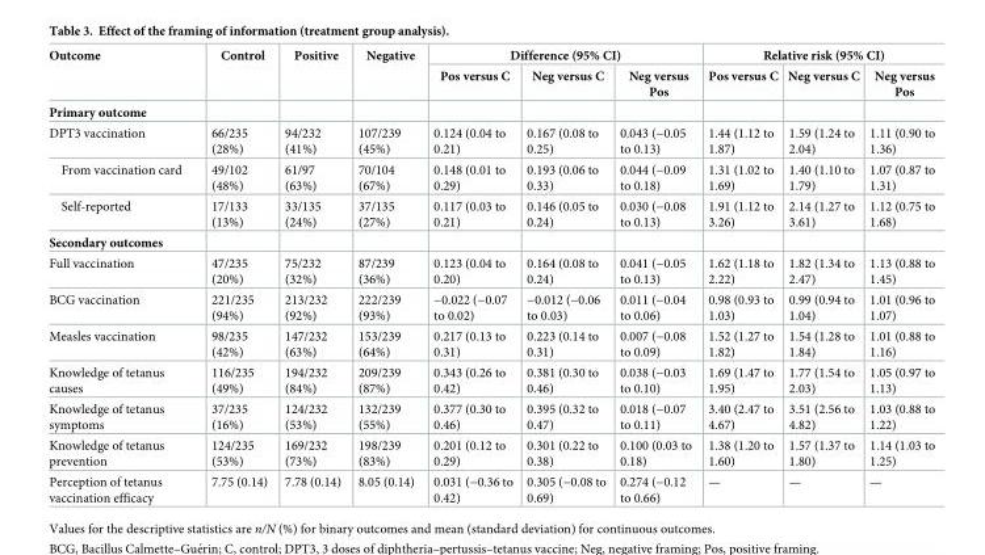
<table><thead><tr><td rowspan="2">Outcome</td><td rowspan="2">Control</td><td rowspan="2">Positive</td><td rowspan="2">Negative</td><td colspan="3">Difference (95% CI)</td><td colspan="3">Relative risk (95% CI)</td></tr><tr><td>Pos versus C</td><td>Neg versus C</td><td>Neg versus Pos</td><td>Pos versus C</td><td>Neg versus C</td><td>Neg versus Pos</td></tr></thead><tbody><tr><td colspan="10">Primary outcome</td></tr><tr><td>DPT3 vaccination</td><td>66/235 (28%)</td><td>94/232 (41%)</td><td>107/239 (45%)</td><td>0.124 (0.04 to 0.21)</td><td>0.167 (0.08 to 0.25)</td><td>0.043 (−0.05 to 0.13)</td><td>1.44 (1.12 to 1.87)</td><td>1.59 (1.24 to 2.04)</td><td>1.11 (0.90 to 1.36)</td></tr><tr><td>From vaccination card</td><td>49/102 (48%)</td><td>61/97 (63%)</td><td>70/104 (67%)</td><td>0.148 (0.01 to 0.29)</td><td>0.193 (0.06 to 0.33)</td><td>0.044 (−0.09 to 0.18)</td><td>1.31 (1.02 to 1.69)</td><td>1.40 (1.10 to 1.79)</td><td>1.07 (0.87 to 1.31)</td></tr><tr><td>Self-reported</td><td>17/133 (13%)</td><td>33/135 (24%)</td><td>37/135 (27%)</td><td>0.117 (0.03 to 0.21)</td><td>0.146 (0.05 to 0.24)</td><td>0.030 (−0.08 to 0.13)</td><td>1.91 (1.12 to 3.26)</td><td>2.14 (1.27 to 3.61)</td><td>1.12 (0.75 to 1.68)</td></tr><tr><td colspan="10">Secondary outcomes</td></tr><tr><td>Full vaccination</td><td>47/235 (20%)</td><td>75/232 (32%)</td><td>87/239 (36%)</td><td>0.123 (0.04 to 0.20)</td><td>0.164 (0.08 to 0.24)</td><td>0.041 (−0.05 to 0.13)</td><td>1.62 (1.18 to 2.22)</td><td>1.82 (1.34 to 2.47)</td><td>1.13 (0.88 to 1.45)</td></tr><tr><td>BCG vaccination</td><td>221/235 (94%)</td><td>213/232 (92%)</td><td>222/239 (93%)</td><td>−0.022 (−0.07 to 0.02)</td><td>−0.012 (−0.06 to 0.03)</td><td>0.011 (−0.04 to 0.06)</td><td>0.98 (0.93 to 1.03)</td><td>0.99 (0.94 to 1.04)</td><td>1.01 (0.96 to 1.07)</td></tr><tr><td>Measles vaccination</td><td>98/235 (42%)</td><td>147/232 (63%)</td><td>153/239 (64%)</td><td>0.217 (0.13 to 0.31)</td><td>0.223 (0.14 to 0.31)</td><td>0.007 (−0.08 to 0.09)</td><td>1.52 (1.27 to 1.82)</td><td>1.54 (1.28 to 1.84)</td><td>1.01 (0.88 to 1.16)</td></tr><tr><td>Knowledge of tetanus causes</td><td>116/235 (49%)</td><td>194/232 (84%)</td><td>209/239 (87%)</td><td>0.343 (0.26 to 0.42)</td><td>0.381 (0.30 to 0.46)</td><td>0.038 (−0.03 to 0.10)</td><td>1.69 (1.47 to 1.95)</td><td>1.77 (1.54 to 2.03)</td><td>1.05 (0.97 to 1.13)</td></tr><tr><td>Knowledge of tetanus symptoms</td><td>37/235 (16%)</td><td>124/232 (53%)</td><td>132/239 (55%)</td><td>0.377 (0.30 to 0.46)</td><td>0.395 (0.32 to 0.47)</td><td>0.018 (−0.07 to 0.11)</td><td>3.40 (2.47 to 4.67)</td><td>3.51 (2.56 to 4.82)</td><td>1.03 (0.88 to 1.22)</td></tr><tr><td>Knowledge of tetanus prevention</td><td>124/235 (53%)</td><td>169/232 (73%)</td><td>198/239 (83%)</td><td>0.201 (0.12 to 0.29)</td><td>0.301 (0.22 to 0.38)</td><td>0.100 (0.03 to 0.18)</td><td>1.38 (1.20 to 1.60)</td><td>1.57 (1.37 to 1.80)</td><td>1.14 (1.03 to 1.25)</td></tr><tr><td>Perception of tetanus vaccination efficacy</td><td>7.75 (0.14)</td><td>7.78 (0.14)</td><td>8.05 (0.14)</td><td>0.031 (−0.36 to 0.42)</td><td>0.305 (−0.08 to 0.69)</td><td>0.274 (−0.12 to 0.66)</td><td>—</td><td>—</td><td>—</td></tr></tbody></table>